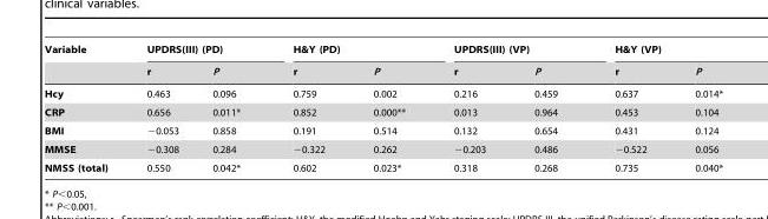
<table><thead><tr><td rowspan="2">Variable</td><td colspan="2">UPDRS(III) (PD)</td><td colspan="2">H&amp;Y (PD)</td><td colspan="2">UPDRS(III) (VP)</td><td colspan="2">H&amp;Y (VP)</td></tr><tr><td>r</td><td>P</td><td>r</td><td>P</td><td>r</td><td>P</td><td>r</td><td>P</td></tr></thead><tbody><tr><td>Hcy</td><td>0.463</td><td>0.096</td><td>0.759</td><td>0.002</td><td>0.216</td><td>0.459</td><td>0.637</td><td>0.014*</td></tr><tr><td>CRP</td><td>0.656</td><td>0.011*</td><td>0.852</td><td>0.000**</td><td>0.013</td><td>0.964</td><td>0.453</td><td>0.104</td></tr><tr><td>BMI</td><td>−0.053</td><td>0.858</td><td>0.191</td><td>0.514</td><td>0.132</td><td>0.654</td><td>0.431</td><td>0.124</td></tr><tr><td>MMSE</td><td>−0.308</td><td>0.284</td><td>−0.322</td><td>0.262</td><td>−0.203</td><td>0.486</td><td>−0.522</td><td>0.056</td></tr><tr><td>NMSS (total)</td><td>0.550</td><td>0.042*</td><td>0.602</td><td>0.023*</td><td>0.318</td><td>0.268</td><td>0.735</td><td>0.040*</td></tr></tbody></table>